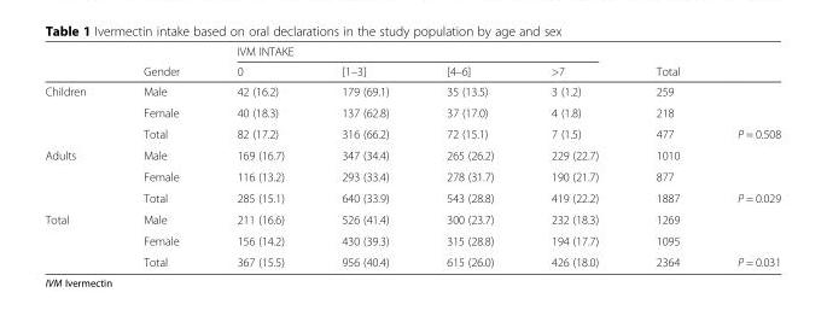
<table><thead><tr><td rowspan="2"></td><td rowspan="2">Gender</td><td colspan="4">IVM INTAKE</td><td rowspan="2">Total</td><td rowspan="2"></td></tr><tr><td>0</td><td>[1–3]</td><td>[4–6]</td><td>&gt;7</td></tr></thead><tbody><tr><td rowspan="3">Children</td><td>Male</td><td>42 (16.2)</td><td>179 (69.1)</td><td>35 (13.5)</td><td>3 (1.2)</td><td>259</td><td></td></tr><tr><td>Female</td><td>40 (18.3)</td><td>137 (62.8)</td><td>37 (17.0)</td><td>4 (1.8)</td><td>218</td><td></td></tr><tr><td>Total</td><td>82 (17.2)</td><td>316 (66.2)</td><td>72 (15.1)</td><td>7 (1.5)</td><td>477</td><td>P = 0.508</td></tr><tr><td rowspan="3">Adults</td><td>Male</td><td>169 (16.7)</td><td>347 (34.4)</td><td>265 (26.2)</td><td>229 (22.7)</td><td>1010</td><td></td></tr><tr><td>Female</td><td>116 (13.2)</td><td>293 (33.4)</td><td>278 (31.7)</td><td>190 (21.7)</td><td>877</td><td></td></tr><tr><td>Total</td><td>285 (15.1)</td><td>640 (33.9)</td><td>543 (28.8)</td><td>419 (22.2)</td><td>1887</td><td>P = 0.029</td></tr><tr><td rowspan="3">Total</td><td>Male</td><td>211 (16.6)</td><td>526 (41.4)</td><td>300 (23.7)</td><td>232 (18.3)</td><td>1269</td><td></td></tr><tr><td>Female</td><td>156 (14.2)</td><td>430 (39.3)</td><td>315 (28.8)</td><td>194 (17.7)</td><td>1095</td><td></td></tr><tr><td>Total</td><td>367 (15.5)</td><td>956 (40.4)</td><td>615 (26.0)</td><td>426 (18.0)</td><td>2364</td><td>P = 0.031</td></tr></tbody></table>